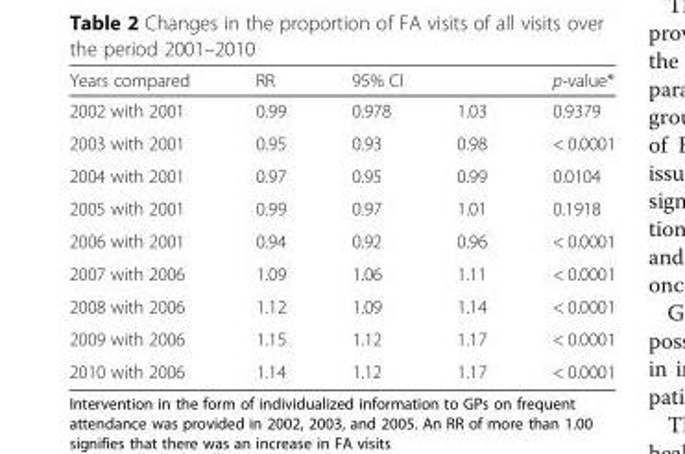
<table><thead><tr><td rowspan="2">Years compared 2002 with 2001</td><td rowspan="2">RR 0.99</td><td colspan="2">95% CI</td><td rowspan="2">p-value* 0.9379</td></tr><tr><td>0.978</td><td>1.03</td></tr></thead><tbody><tr><td>2003 with 2001</td><td>0.95</td><td>0.93</td><td>0.98</td><td>&lt; 0.0001</td></tr><tr><td>2004 with 2001</td><td>0.97</td><td>0.95</td><td>0.99</td><td>0.0104</td></tr><tr><td>2005 with 2001</td><td>0.99</td><td>0.97</td><td>1.01</td><td>0.1918</td></tr><tr><td>2006 with 2001</td><td>0.94</td><td>0.92</td><td>0.96</td><td>&lt; 0.0001</td></tr><tr><td>2007 with 2006</td><td>1.09</td><td>1.06</td><td>1.11</td><td>&lt; 0.0001</td></tr><tr><td>2008 with 2006</td><td>1.12</td><td>1.09</td><td>1.14</td><td>&lt; 0.0001</td></tr><tr><td>2009 with 2006</td><td>1.15</td><td>1.12</td><td>1.17</td><td>&lt; 0.0001</td></tr><tr><td>2010 with 2006</td><td>1.14</td><td>1.12</td><td>1.17</td><td>&lt; 0.0001</td></tr></tbody></table>